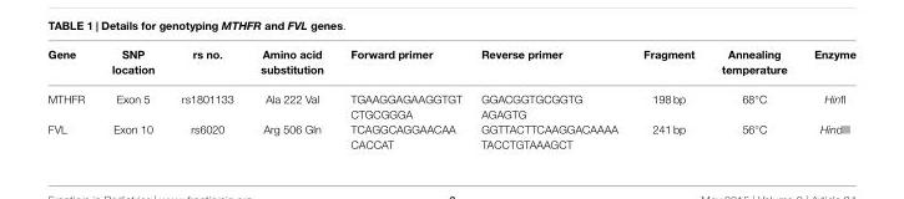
<table><thead><tr><td>Gene</td><td>SNP location</td><td>rs no.</td><td>Amino acid substitution</td><td>Forward primer</td><td>Reverse primer</td><td>Fragment</td><td>Annealing temperature</td><td>Enzyme</td></tr></thead><tbody><tr><td>MTHFR</td><td>Exon 5</td><td>rs1801133</td><td>Ala 222 Val</td><td>TGAAGGAGAAGGTGT CTGCGGGA</td><td>GGACGGTGCGGTG AGAGTG</td><td>198 bp</td><td>68°C</td><td>HinfI</td></tr><tr><td>FVL</td><td>Exon 10</td><td>rs6020</td><td>Arg 506 Gln</td><td>TCAGGCAGGAACAA CACCAT</td><td>GGTTACTTCAAGGACAAAA TACCTGTAAAGCT</td><td>241 bp</td><td>56°C</td><td>HindIII</td></tr></tbody></table>